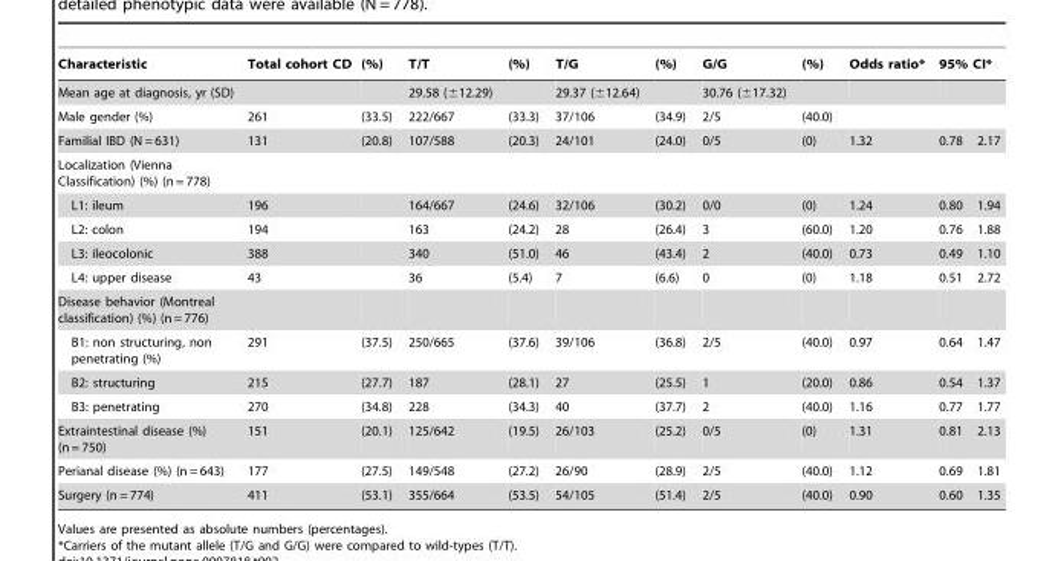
<table><thead><tr><td rowspan="3">Characteristic Mean age at diagnosis, yr (SD) Male gender (%)</td><td rowspan="3">Total cohort CD 261</td><td rowspan="3">(%) (33.5)</td><td>T/T</td><td>(%)</td><td>T/G</td><td>(%)</td><td>G/G</td><td>(%)</td><td rowspan="3">Odds ratio*</td><td rowspan="2" colspan="2">95% CI*</td></tr><tr><td colspan="2">29.58 (±12.29)</td><td colspan="2">29.37 (±12.64)</td><td colspan="2">30.76 (±17.32)</td></tr><tr><td>222/667</td><td>(33.3)</td><td>37/106</td><td>(34.9)</td><td>2/5</td><td>(40.0)</td><td></td><td></td></tr></thead><tbody><tr><td>Familial IBD (N = 631)</td><td>131</td><td>(20.8)</td><td>107/588</td><td>(20.3)</td><td>24/101</td><td>(24.0)</td><td>0/5</td><td>(0)</td><td>1.32</td><td>0.78</td><td>2.17</td></tr><tr><td colspan="12">Localization (Vienna Classification) (%) (n = 778)</td></tr><tr><td>L1: ileum</td><td>196</td><td></td><td>164/667</td><td>(24.6)</td><td>32/106</td><td>(30.2)</td><td>0/0</td><td>(0)</td><td>1.24</td><td>0.80</td><td>1.94</td></tr><tr><td>L2: colon</td><td>194</td><td></td><td>163</td><td>(24.2)</td><td>28</td><td>(26.4)</td><td>3</td><td>(60.0)</td><td>1.20</td><td>0.76</td><td>1.88</td></tr><tr><td>L3: ileocolonic</td><td>388</td><td></td><td>340</td><td>(51.0)</td><td>46</td><td>(43.4)</td><td>2</td><td>(40.0)</td><td>0.73</td><td>0.49</td><td>1.10</td></tr><tr><td>L4: upper disease</td><td>43</td><td></td><td>36</td><td>(5.4)</td><td>7</td><td>(6.6)</td><td>0</td><td>(0)</td><td>1.18</td><td>0.51</td><td>2.72</td></tr><tr><td colspan="12">Disease behavior (Montreal classification) (%) (n = 776)</td></tr><tr><td>B1: non structuring, non penetrating (%)</td><td>291</td><td>(37.5)</td><td>250/665</td><td>(37.6)</td><td>39/106</td><td>(36.8)</td><td>2/5</td><td>(40.0)</td><td>0.97</td><td>0.64</td><td>1.47</td></tr><tr><td>B2: structuring</td><td>215</td><td>(27.7)</td><td>187</td><td>(28.1)</td><td>27</td><td>(25.5)</td><td>1</td><td>(20.0)</td><td>0.86</td><td>0.54</td><td>1.37</td></tr><tr><td>B3: penetrating</td><td>270</td><td>(34.8)</td><td>228</td><td>(34.3)</td><td>40</td><td>(37.7)</td><td>2</td><td>(40.0)</td><td>1.16</td><td>0.77</td><td>1.77</td></tr><tr><td>Extraintestinal disease (%) (n = 750)</td><td>151</td><td>(20.1)</td><td>125/642</td><td>(19.5)</td><td>26/103</td><td>(25.2)</td><td>0/5</td><td>(0)</td><td>1.31</td><td>0.81</td><td>2.13</td></tr><tr><td>Perianal disease (%) (n = 643)</td><td>177</td><td>(27.5)</td><td>149/548</td><td>(27.2)</td><td>26/90</td><td>(28.9)</td><td>2/5</td><td>(40.0)</td><td>1.12</td><td>0.69</td><td>1.81</td></tr><tr><td>Surgery (n = 774)</td><td>411</td><td>(53.1)</td><td>355/664</td><td>(53.5)</td><td>54/105</td><td>(51.4)</td><td>2/5</td><td>(40.0)</td><td>0.90</td><td>0.60</td><td>1.35</td></tr></tbody></table>